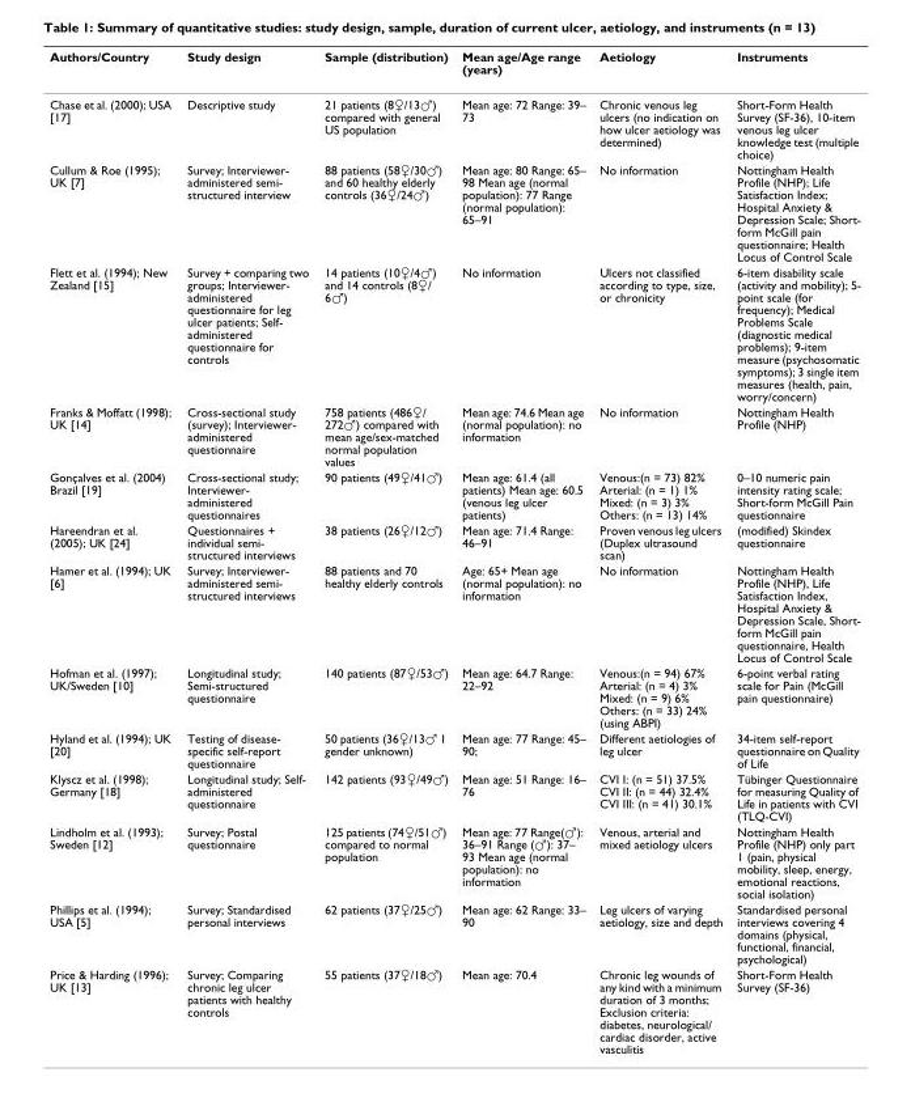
<table><thead><tr><td>Authors/Country</td><td>Study design</td><td>Sample (distribution)</td><td>Mean age/Age range (years)</td><td>Aetiology</td><td>Instruments</td></tr></thead><tbody><tr><td>Chase et al. (2000); USA [17]</td><td>Descriptive study</td><td>21 patients (8♀/13♂) compared with general US population</td><td>Mean age: 72 Range: 39– 73</td><td>Chronic venous leg ulcers (no indication on how ulcer aetiology was determined)</td><td>Short-Form Health Survey (SF-36), 10-item venous leg ulcer knowledge test (multiple choice)</td></tr><tr><td>Cullum &amp; Roe (1995); UK [7]</td><td>Survey; Interviewer- administered semi- structured interview</td><td>88 patients (58♀/30♂) and 60 healthy elderly controls (36♀/24♂)</td><td>Mean age: 80 Range: 65– 98 Mean age (normal population): 77 Range (normal population): 65–91</td><td>No information</td><td>Nottingham Health Profile (NHP); Life Satisfaction Index; Hospital Anxiety &amp; Depression Scale; Short- form McGill pain questionnaire; Health Locus of Control Scale</td></tr><tr><td>Flett et al. (1994); New Zealand [15]</td><td>Survey + comparing two groups; Interviewer- administered questionnaire for leg ulcer patients; Self- administered questionnaire for controls</td><td>14 patients (10♀/4♂) and 14 controls (8♀/ 6♂)</td><td>No information</td><td>Ulcers not classified according to type, size, or chronicity</td><td>6-item disability scale (activity and mobility); 5- point scale (for frequency); Medical Problems Scale (diagnostic medical problems); 9-item measure (psychosomatic symptoms); 3 single item measures (health, pain, worry/concern)</td></tr><tr><td>Franks &amp; Moffatt (1998); UK [14]</td><td>Cross-sectional study (survey); Interviewer- administered questionnaire</td><td>758 patients (486♀/ 272♂) compared with mean age/sex-matched normal population values</td><td>Mean age: 74.6 Mean age (normal population): no information</td><td>No information</td><td>Nottingham Health Profile (NHP)</td></tr><tr><td>Gonçalves et al. (2004) Brazil [19]</td><td>Cross-sectional study; Interviewer- administered questionnaires</td><td>90 patients (49♀/41♂)</td><td>Mean age: 61.4 (all patients) Mean age: 60.5 (venous leg ulcer patients)</td><td>Venous:(n = 73) 82% Arterial: (n = 1) 1% Mixed: (n = 3) 3% Others: (n = 13) 14%</td><td>0–10 numeric pain intensity rating scale; Short-form McGill Pain questionnaire</td></tr><tr><td>Hareendran et al. (2005); UK [24]</td><td>Questionnaires + individual semi- structured interviews</td><td>38 patients (26♀/12♂)</td><td>Mean age: 71.4 Range: 46–91</td><td>Proven venous leg ulcers (Duplex ultrasound scan)</td><td>(modified) Skindex questionnaire</td></tr><tr><td>Hamer et al. (1994); UK [6]</td><td>Survey; Interviewer- administered semi- structured interviews</td><td>88 patients and 70 healthy elderly controls</td><td>Age: 65+ Mean age (normal population): no information</td><td>No information</td><td>Nottingham Health Profile (NHP), Life Satisfaction Index, Hospital Anxiety &amp; Depression Scale, Short- form McGill pain questionnaire, Health Locus of Control Scale</td></tr><tr><td>Hofman et al. (1997); UK/Sweden [10]</td><td>Longitudinal study; Semi-structured questionnaire</td><td>140 patients (87♀/53♂)</td><td>Mean age: 64.7 Range: 22–92</td><td>Venous:(n = 94) 67% Arterial: (n = 4) 3% Mixed: (n = 9) 6% Others: (n = 33) 24% (using ABPI)</td><td>6-point verbal rating scale for Pain (McGill pain questionnaire)</td></tr><tr><td>Hyland et al. (1994); UK [20]</td><td>Testing of disease- specific self-report questionnaire</td><td>50 patients (36♀/13♂ 1 gender unknown)</td><td>Mean age: 77 Range: 45– 90;</td><td>Different aetiologies of leg ulcer</td><td>34-item self-report questionnaire on Quality of Life</td></tr><tr><td>Klyscz et al. (1998); Germany [18]</td><td>Longitudinal study; Self- administered questionnaire</td><td>142 patients (93♀/49♂)</td><td>Mean age: 51 Range: 16– 76</td><td>CVI I: (n = 51) 37.5% CVI II: (n = 44) 32.4% CVI III: (n = 41) 30.1%</td><td>Tübinger Questionnaire for measuring Quality of Life in patients with CVI (TLQ-CVI)</td></tr><tr><td>Lindholm et al. (1993); Sweden [12]</td><td>Survey; Postal questionnaire</td><td>125 patients (74♀/51♂) compared to normal population</td><td>Mean age: 77 Range(♂): 36–91 Range (♂): 37– 93 Mean age (normal population): no information</td><td>Venous, arterial and mixed aetiology ulcers</td><td>Nottingham Health Profile (NHP) only part 1 (pain, physical mobility, sleep, energy, emotional reactions, social isolation)</td></tr><tr><td>Phillips et al. (1994); USA [5]</td><td>Survey; Standardised personal interviews</td><td>62 patients (37♀/25♂)</td><td>Mean age: 62 Range: 33– 90</td><td>Leg ulcers of varying aetiology, size and depth</td><td>Standardised personal interviews covering 4 domains (physical, functional, financial, psychological)</td></tr><tr><td>Price &amp; Harding (1996); UK [13]</td><td>Survey; Comparing chronic leg ulcer patients with healthy controls</td><td>55 patients (37♀/18♂)</td><td>Mean age: 70.4</td><td>Chronic leg wounds of any kind with a minimum duration of 3 months; Exclusion criteria: diabetes, neurological/ cardiac disorder, active vasculitis</td><td>Short-Form Health Survey (SF-36)</td></tr></tbody></table>